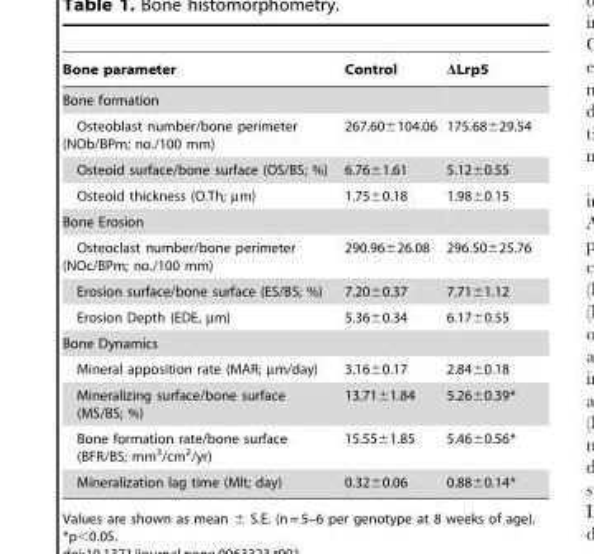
<table><thead><tr><td>Bone parameter</td><td>Control</td><td>ΔLrp5</td></tr></thead><tbody><tr><td colspan="3">Bone formation</td></tr><tr><td>Osteoblast number/bone perimeter (NOb/BPm; no./100 mm)</td><td>267.60±104.06</td><td>175.68±29.54</td></tr><tr><td>Osteoid surface/bone surface (OS/BS; %)</td><td>6.76±1.61</td><td>5.12±0.55</td></tr><tr><td>Osteoid thickness (O.Th; µm)</td><td>1.75±0.18</td><td>1.98±0.15</td></tr><tr><td colspan="3">Bone Erosion</td></tr><tr><td>Osteoclast number/bone perimeter (NOc/BPm; no./100 mm)</td><td>290.96±26.08</td><td>296.50±25.76</td></tr><tr><td>Erosion surface/bone surface (ES/BS; %)</td><td>7.20±0.37</td><td>7.71±1.12</td></tr><tr><td>Erosion Depth (EDE, µm)</td><td>5.36±0.34</td><td>6.17±0.55</td></tr><tr><td colspan="3">Bone Dynamics</td></tr><tr><td>Mineral apposition rate (MAR; µm/day)</td><td>3.16±0.17</td><td>2.84±0.18</td></tr><tr><td>Mineralizing surface/bone surface (MS/BS; %)</td><td>13.71±1.84</td><td>5.26±0.39*</td></tr><tr><td>Bone formation rate/bone surface (BFR/BS; mm<sup>3</sup>/cm<sup>2</sup>/yr)</td><td>15.55±1.85</td><td>5.46±0.56*</td></tr><tr><td>Mineralization lag time (Mlt; day)</td><td>0.32±0.06</td><td>0.88±0.14*</td></tr></tbody></table>